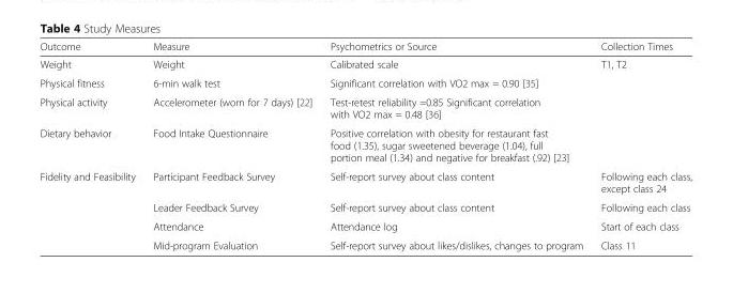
<table><thead><tr><td>Outcome</td><td>Measure</td><td>Psychometrics or Source</td><td>Collection Times</td></tr></thead><tbody><tr><td>Weight</td><td>Weight</td><td>Calibrated scale</td><td rowspan="4">T1, T2</td></tr><tr><td>Physical fitness</td><td>6-min walk test</td><td>Significant correlation with VO2 max = 0.90 [35]</td></tr><tr><td>Physical activity</td><td>Accelerometer (worn for 7 days) [22]</td><td>Test-retest reliability =0.85 Significant correlation with VO2 max = 0.48 [36]</td></tr><tr><td>Dietary behavior</td><td>Food Intake Questionnaire</td><td>Positive correlation with obesity for restaurant fast food (1.35), sugar sweetened beverage (1.04), full portion meal (1.34) and negative for breakfast (.92) [23]</td></tr><tr><td rowspan="4">Fidelity and Feasibility</td><td>Participant Feedback Survey</td><td>Self-report survey about class content</td><td>Following each class, except class 24</td></tr><tr><td>Leader Feedback Survey</td><td>Self-report survey about class content</td><td>Following each class</td></tr><tr><td>Attendance</td><td>Attendance log</td><td>Start of each class</td></tr><tr><td>Mid-program Evaluation</td><td>Self-report survey about likes/dislikes, changes to program</td><td>Class 11</td></tr></tbody></table>